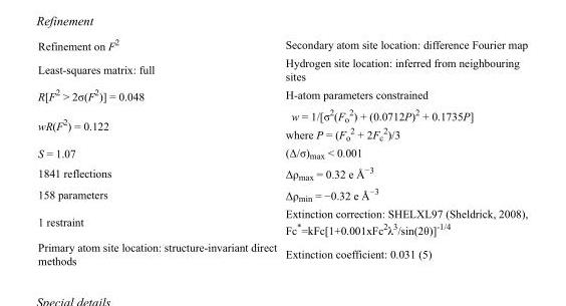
<table><tbody><tr><td>Refinement on F<sup>2</sup></td><td>Secondary atom site location: difference Fourier map</td></tr><tr><td>Least-squares matrix: full</td><td>Hydrogen site location: inferred from neighbouring sites</td></tr><tr><td>R[F<sup>2</sup> &gt; 2σ(F<sup>2</sup>)] = 0.048</td><td>H-atom parameters constrained</td></tr><tr><td>wR(F<sup>2</sup>) = 0.122</td><td>w = 1/[σ<sup>2</sup>(F<sub>o</sub> <sup>2</sup>) + (0.0712P)<sup>2</sup> + 0.1735P] where P = (F<sub>o</sub> <sup>2</sup> + 2F<sub>c</sub> <sup>2</sup>)/3</td></tr><tr><td>S = 1.07</td><td>(Δ/σ)<sub>max</sub> &lt; 0.001</td></tr><tr><td>1841 reflections</td><td>Δρ<sub>max</sub> = 0.32 e Å<sup>−3</sup></td></tr><tr><td>158 parameters</td><td>Δρ<sub>min</sub> = −0.32 e Å<sup>−3</sup></td></tr><tr><td>1 restraint</td><td>Extinction correction: SHELXL97 (Sheldrick, 2008), Fc*=kFc[1+0.001xFc<sup>2</sup>λ<sup>3</sup>/sin(2θ)]<sup>-1/4</sup></td></tr><tr><td>Primary atom site location: structure-invariant direct methods</td><td>Extinction coefficient: 0.031 (5)</td></tr></tbody></table>